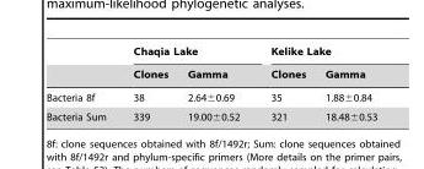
<table><thead><tr><td rowspan="2"></td><td colspan="2">Chaqia Lake</td><td colspan="2">Kelike Lake</td></tr><tr><td>Clones</td><td>Gamma</td><td>Clones</td><td>Gamma</td></tr></thead><tbody><tr><td>Bacteria 8f</td><td>38</td><td>2.64±0.69</td><td>35</td><td>1.88±0.84</td></tr><tr><td>Bacteria Sum</td><td>339</td><td>19.00±0.52</td><td>321</td><td>18.48±0.53</td></tr></tbody></table>